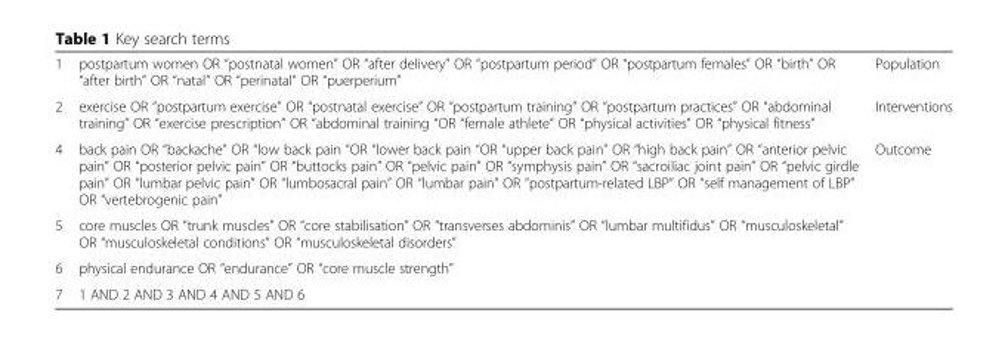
<table><tbody><tr><td>1</td><td>postpartum women OR “postnatal women” OR “after delivery” OR “postpartum period” OR “postpartum females” OR “birth” OR “after birth” OR “natal” OR “perinatal” OR “puerperium”</td><td>Population</td></tr><tr><td>2</td><td>exercise OR “postpartum exercise” OR “postnatal exercise” OR “postpartum training” OR “postpartum practices” OR “abdominal training” OR “exercise prescription” OR “abdominal training “OR “female athlete” OR “physical activities” OR “physical fitness”</td><td>Interventions</td></tr><tr><td>4</td><td>back pain OR “backache” OR “low back pain “OR “lower back pain “OR “upper back pain” OR “high back pain” OR “anterior pelvic pain” OR “posterior pelvic pain” OR “buttocks pain” OR “pelvic pain” OR “symphysis pain” OR “sacroiliac joint pain” OR “pelvic girdle pain” OR “lumbar pelvic pain” OR “lumbosacral pain” OR “lumbar pain” OR “postpartum-related LBP” OR “self management of LBP” OR “vertebrogenic pain”</td><td>Outcome</td></tr><tr><td>5</td><td>core muscles OR “trunk muscles” OR “core stabilisation” OR “transverses abdominis” OR “lumbar multifidus” OR “musculoskeletal” OR “musculoskeletal conditions” OR “musculoskeletal disorders”</td><td></td></tr><tr><td>6</td><td>physical endurance OR “endurance” OR “core muscle strength”</td><td></td></tr><tr><td>7</td><td>1 AND 2 AND 3 AND 4 AND 5 AND 6</td><td></td></tr></tbody></table>